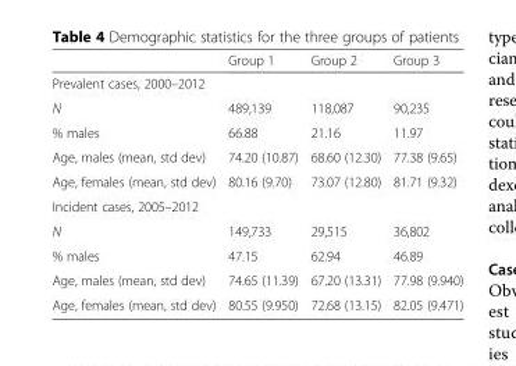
<table><thead><tr><td></td><td>Group 1</td><td>Group 2</td><td>Group 3</td></tr></thead><tbody><tr><td colspan="4">Prevalent cases, 2000–2012</td></tr><tr><td>N</td><td>489,139</td><td>118,087</td><td>90,235</td></tr><tr><td>% males</td><td>66.88</td><td>21.16</td><td>11.97</td></tr><tr><td>Age, males (mean, std dev)</td><td>74.20 (10.87)</td><td>68.60 (12.30)</td><td>77.38 (9.65)</td></tr><tr><td>Age, females (mean, std dev)</td><td>80.16 (9.70)</td><td>73.07 (12.80)</td><td>81.71 (9.32)</td></tr><tr><td colspan="4">Incident cases, 2005–2012</td></tr><tr><td>N</td><td>149,733</td><td>29,515</td><td>36,802</td></tr><tr><td>% males</td><td>47.15</td><td>62.94</td><td>46.89</td></tr><tr><td>Age, males (mean, std dev)</td><td>74.65 (11.39)</td><td>67.20 (13.31)</td><td>77.98 (9.940)</td></tr><tr><td>Age, females (mean, std dev)</td><td>80.55 (9.950)</td><td>72.68 (13.15)</td><td>82.05 (9.471)</td></tr></tbody></table>